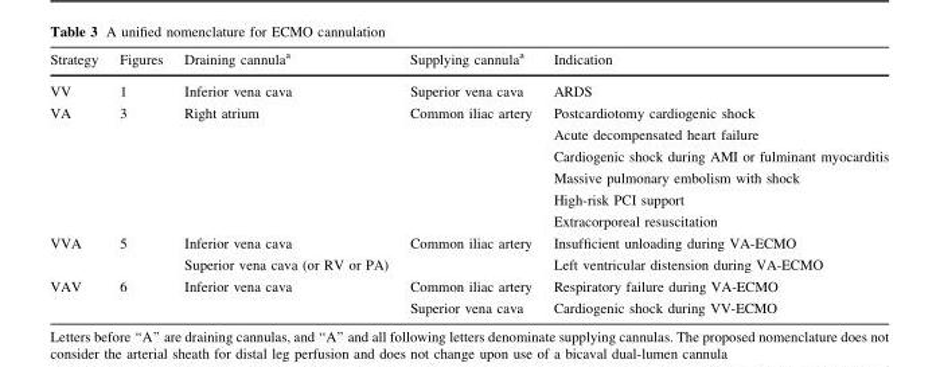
<table><thead><tr><td>Strategy</td><td>Figures</td><td>Draining cannula<sup>a</sup></td><td>Supplying cannula<sup>a</sup></td><td>Indication</td></tr></thead><tbody><tr><td>VV</td><td>1</td><td>Inferior vena cava</td><td>Superior vena cava</td><td>ARDS</td></tr><tr><td>VA</td><td>3</td><td>Right atrium</td><td>Common iliac artery</td><td>Postcardiotomy cardiogenic shock Acute decompensated heart failure Cardiogenic shock during AMI or fulminant myocarditis Massive pulmonary embolism with shock High-risk PCI support Extracorporeal resuscitation</td></tr><tr><td>VVA</td><td>5</td><td>Inferior vena cava Superior vena cava (or RV or PA)</td><td>Common iliac artery</td><td>Insufficient unloading during VA-ECMO Left ventricular distension during VA-ECMO</td></tr><tr><td>VAV</td><td>6</td><td>Inferior vena cava</td><td>Common iliac artery Superior vena cava</td><td>Respiratory failure during VA-ECMO Cardiogenic shock during VV-ECMO</td></tr></tbody></table>